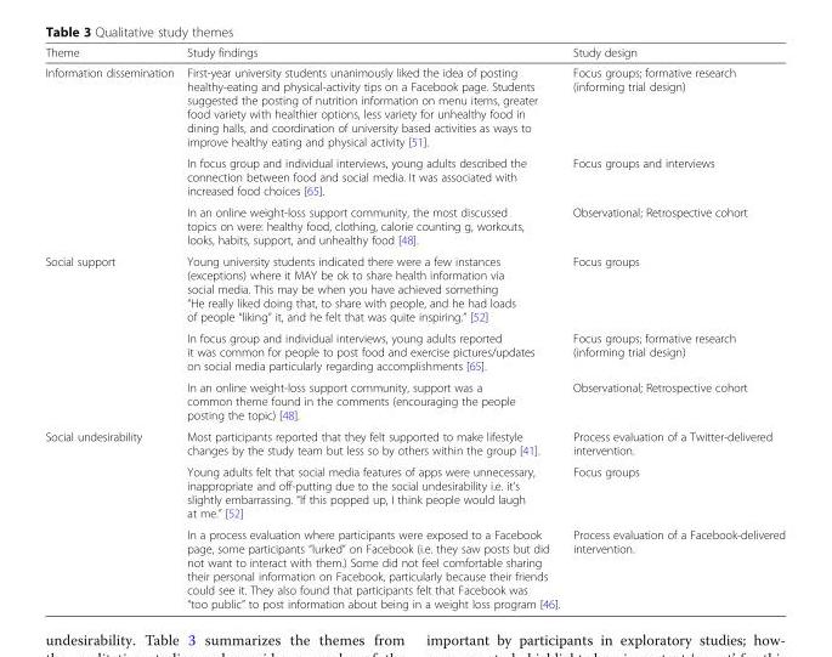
<table><thead><tr><td>Theme</td><td>Study findings</td><td>Study design</td></tr></thead><tbody><tr><td rowspan="3">Information dissemination</td><td>First-year university students unanimously liked the idea of posting healthy-eating and physical-activity tips on a Facebook page. Students suggested the posting of nutrition information on menu items, greater food variety with healthier options, less variety for unhealthy food in dining halls, and coordination of university based activities as ways to improve healthy eating and physical activity [51].</td><td>Focus groups; formative research (informing trial design)</td></tr><tr><td>In focus group and individual interviews, young adults described the connection between food and social media. It was associated with increased food choices [65].</td><td>Focus groups and interviews</td></tr><tr><td>In an online weight-loss support community, the most discussed topics on were: healthy food, clothing, calorie counting g, workouts, looks, habits, support, and unhealthy food [48].</td><td>Observational; Retrospective cohort</td></tr><tr><td rowspan="3">Social support</td><td>Young university students indicated there were a few instances (exceptions) where it MAY be ok to share health information via social media. This may be when you have achieved something “He really liked doing that, to share with people, and he had loads of people “liking” it, and he felt that was quite inspiring.” [52]</td><td>Focus groups</td></tr><tr><td>In focus group and individual interviews, young adults reported it was common for people to post food and exercise pictures/updates on social media particularly regarding accomplishments [65].</td><td>Focus groups; formative research (informing trial design)</td></tr><tr><td>In an online weight-loss support community, support was a common theme found in the comments (encouraging the people posting the topic) [48].</td><td>Observational; Retrospective cohort</td></tr><tr><td rowspan="3">Social undesirability</td><td>Most participants reported that they felt supported to make lifestyle changes by the study team but less so by others within the group [41].</td><td>Process evaluation of a Twitter-delivered intervention.</td></tr><tr><td>Young adults felt that social media features of apps were unnecessary, inappropriate and off-putting due to the social undesirability i.e. it’s slightly embarrassing. “If this popped up, I think people would laugh at me.” [52]</td><td>Focus groups</td></tr><tr><td>In a process evaluation where participants were exposed to a Facebook page, some participants “lurked” on Facebook (i.e. they saw posts but did not want to interact with them.) Some did not feel comfortable sharing their personal information on Facebook, particularly because their friends could see it. They also found that participants felt that Facebook was “too public” to post information about being in a weight loss program [46].</td><td>Process evaluation of a Facebook-delivered intervention.</td></tr></tbody></table>